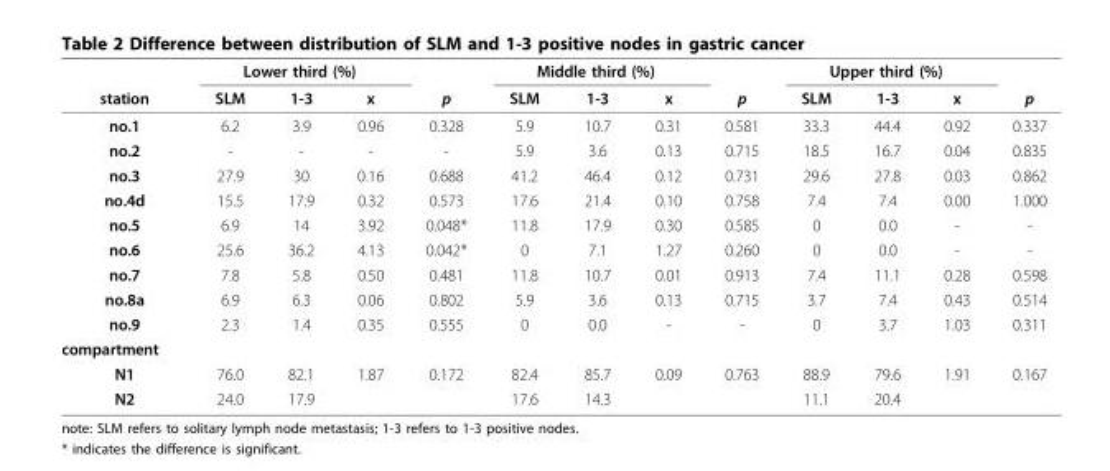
<table><thead><tr><td rowspan="2">station</td><td colspan="3">Lower third (%)</td><td rowspan="2">p</td><td colspan="3">Middle third (%)</td><td rowspan="2">p</td><td colspan="3">Upper third (%)</td><td rowspan="2">p</td></tr><tr><td>SLM</td><td>1-3</td><td>x</td><td>SLM</td><td>1-3</td><td>x</td><td>SLM</td><td>1-3</td><td>x</td></tr></thead><tbody><tr><td>no.1</td><td>6.2</td><td>3.9</td><td>0.96</td><td>0.328</td><td>5.9</td><td>10.7</td><td>0.31</td><td>0.581</td><td>33.3</td><td>44.4</td><td>0.92</td><td>0.337</td></tr><tr><td>no.2</td><td>-</td><td>-</td><td>-</td><td>-</td><td>5.9</td><td>3.6</td><td>0.13</td><td>0.715</td><td>18.5</td><td>16.7</td><td>0.04</td><td>0.835</td></tr><tr><td>no.3</td><td>27.9</td><td>30</td><td>0.16</td><td>0.688</td><td>41.2</td><td>46.4</td><td>0.12</td><td>0.731</td><td>29.6</td><td>27.8</td><td>0.03</td><td>0.862</td></tr><tr><td>no.4d</td><td>15.5</td><td>17.9</td><td>0.32</td><td>0.573</td><td>17.6</td><td>21.4</td><td>0.10</td><td>0.758</td><td>7.4</td><td>7.4</td><td>0.00</td><td>1.000</td></tr><tr><td>no.5</td><td>6.9</td><td>14</td><td>3.92</td><td>0.048*</td><td>11.8</td><td>17.9</td><td>0.30</td><td>0.585</td><td>0</td><td>0.0</td><td>-</td><td>-</td></tr><tr><td>no.6</td><td>25.6</td><td>36.2</td><td>4.13</td><td>0.042*</td><td>0</td><td>7.1</td><td>1.27</td><td>0.260</td><td>0</td><td>0.0</td><td>-</td><td>-</td></tr><tr><td>no.7</td><td>7.8</td><td>5.8</td><td>0.50</td><td>0.481</td><td>11.8</td><td>10.7</td><td>0.01</td><td>0.913</td><td>7.4</td><td>11.1</td><td>0.28</td><td>0.598</td></tr><tr><td>no.8a</td><td>6.9</td><td>6.3</td><td>0.06</td><td>0.802</td><td>5.9</td><td>3.6</td><td>0.13</td><td>0.715</td><td>3.7</td><td>7.4</td><td>0.43</td><td>0.514</td></tr><tr><td>no.9</td><td>2.3</td><td>1.4</td><td>0.35</td><td>0.555</td><td>0</td><td>0.0</td><td>-</td><td>-</td><td>0</td><td>3.7</td><td>1.03</td><td>0.311</td></tr><tr><td colspan="13">compartment</td></tr><tr><td>N1</td><td>76.0</td><td>82.1</td><td>1.87</td><td>0.172</td><td>82.4</td><td>85.7</td><td>0.09</td><td>0.763</td><td>88.9</td><td>79.6</td><td>1.91</td><td>0.167</td></tr><tr><td>N2</td><td>24.0</td><td>17.9</td><td></td><td></td><td>17.6</td><td>14.3</td><td></td><td></td><td>11.1</td><td>20.4</td><td></td><td></td></tr></tbody></table>